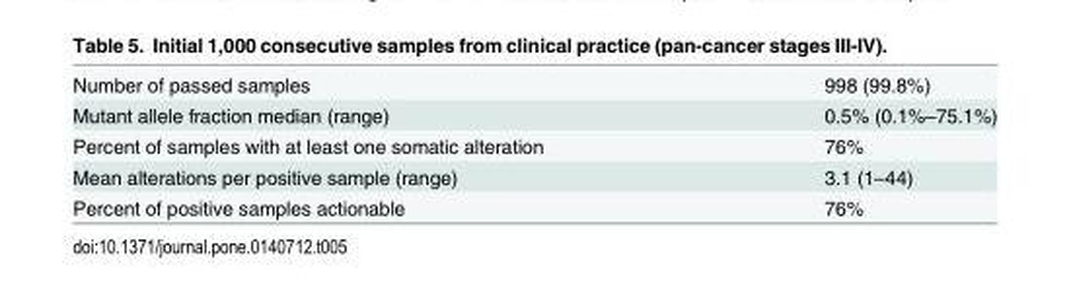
<table><tbody><tr><td>Number of passed samples</td><td>998 (99.8%)</td></tr><tr><td>Mutant allele fraction median (range)</td><td>0.5% (0.1%–75.1%)</td></tr><tr><td>Percent of samples with at least one somatic alteration</td><td>76%</td></tr><tr><td>Mean alterations per positive sample (range)</td><td>3.1 (1–44)</td></tr><tr><td>Percent of positive samples actionable</td><td>76%</td></tr></tbody></table>